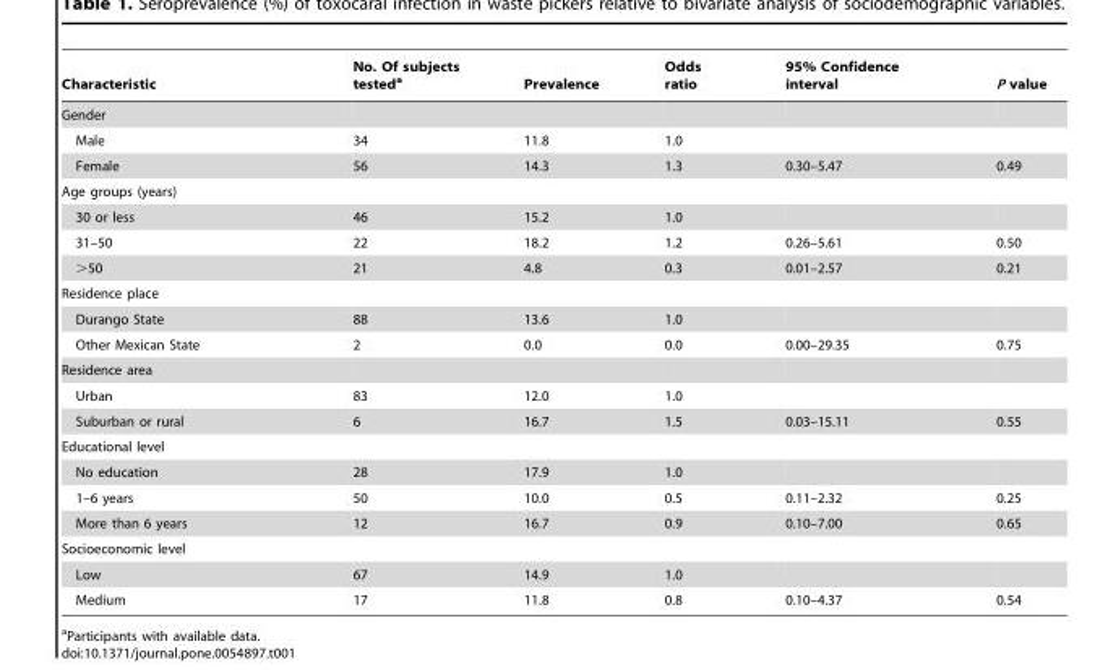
<table><thead><tr><td>Characteristic</td><td>No. Of subjects tested<sup>a</sup></td><td>Prevalence</td><td>Odds ratio</td><td>95% Confidence interval</td><td>P value</td></tr></thead><tbody><tr><td colspan="6">Gender</td></tr><tr><td>Male</td><td>34</td><td>11.8</td><td>1.0</td><td></td><td></td></tr><tr><td>Female</td><td>56</td><td>14.3</td><td>1.3</td><td>0.30–5.47</td><td>0.49</td></tr><tr><td colspan="6">Age groups (years)</td></tr><tr><td>30 or less</td><td>46</td><td>15.2</td><td>1.0</td><td></td><td></td></tr><tr><td>31–50</td><td>22</td><td>18.2</td><td>1.2</td><td>0.26–5.61</td><td>0.50</td></tr><tr><td>&gt;50</td><td>21</td><td>4.8</td><td>0.3</td><td>0.01–2.57</td><td>0.21</td></tr><tr><td colspan="6">Residence place</td></tr><tr><td>Durango State</td><td>88</td><td>13.6</td><td>1.0</td><td></td><td></td></tr><tr><td>Other Mexican State</td><td>2</td><td>0.0</td><td>0.0</td><td>0.00–29.35</td><td>0.75</td></tr><tr><td colspan="6">Residence area</td></tr><tr><td>Urban</td><td>83</td><td>12.0</td><td>1.0</td><td></td><td></td></tr><tr><td>Suburban or rural</td><td>6</td><td>16.7</td><td>1.5</td><td>0.03–15.11</td><td>0.55</td></tr><tr><td colspan="6">Educational level</td></tr><tr><td>No education</td><td>28</td><td>17.9</td><td>1.0</td><td></td><td></td></tr><tr><td>1–6 years</td><td>50</td><td>10.0</td><td>0.5</td><td>0.11–2.32</td><td>0.25</td></tr><tr><td>More than 6 years</td><td>12</td><td>16.7</td><td>0.9</td><td>0.10–7.00</td><td>0.65</td></tr><tr><td colspan="6">Socioeconomic level</td></tr><tr><td>Low</td><td>67</td><td>14.9</td><td>1.0</td><td></td><td></td></tr><tr><td>Medium</td><td>17</td><td>11.8</td><td>0.8</td><td>0.10–4.37</td><td>0.54</td></tr></tbody></table>